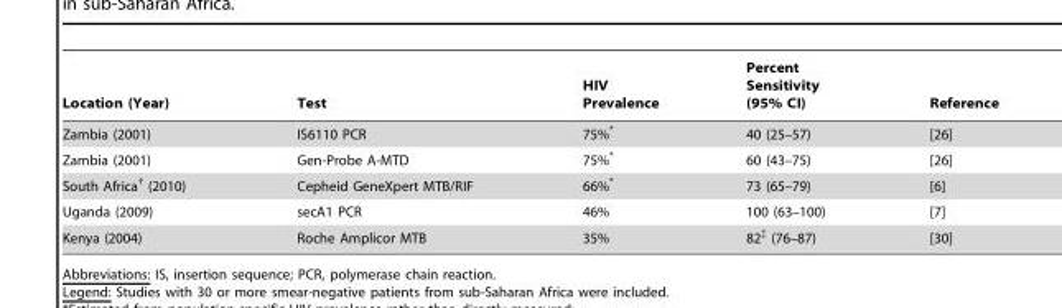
<table><thead><tr><td>Location (Year)</td><td>Test</td><td>HIV Prevalence</td><td>Percent Sensitivity (95% CI)</td><td>Reference</td></tr></thead><tbody><tr><td>Zambia (2001)</td><td>IS6110 PCR</td><td>75%*</td><td>40 (25–57)</td><td>[26]</td></tr><tr><td>Zambia (2001)</td><td>Gen-Probe A-MTD</td><td>75%*</td><td>60 (43–75)</td><td>[26]</td></tr><tr><td>South Africa† (2010)</td><td>Cepheid GeneXpert MTB/RIF</td><td>66%*</td><td>73 (65–79)</td><td>[6]</td></tr><tr><td>Uganda (2009)</td><td>secA1 PCR</td><td>46%</td><td>100 (63–100)</td><td>[7]</td></tr><tr><td>Kenya (2004)</td><td>Roche Amplicor MTB</td><td>35%</td><td>82‡ (76–87)</td><td>[30]</td></tr></tbody></table>